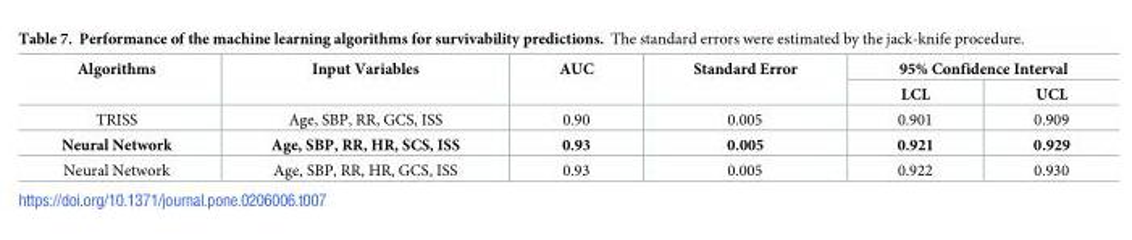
<table><thead><tr><td rowspan="2">Algorithms</td><td rowspan="2">Input Variables</td><td rowspan="2">AUC</td><td rowspan="2">Standard Error</td><td colspan="2">95% Confidence Interval</td></tr><tr><td>LCL</td><td>UCL</td></tr></thead><tbody><tr><td>TRISS</td><td>Age, SBP, RR, GCS, ISS</td><td>0.90</td><td>0.005</td><td>0.901</td><td>0.909</td></tr><tr><td>Neural Network</td><td>Age, SBP, RR, HR, SCS, ISS</td><td>0.93</td><td>0.005</td><td>0.921</td><td>0.929</td></tr><tr><td>Neural Network</td><td>Age, SBP, RR, HR, GCS, ISS</td><td>0.93</td><td>0.005</td><td>0.922</td><td>0.930</td></tr></tbody></table>